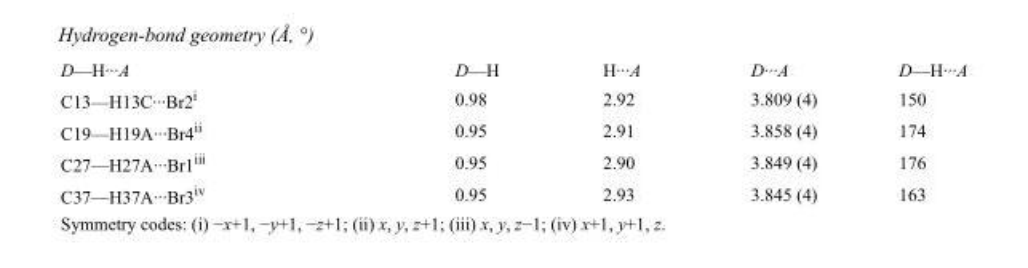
<table><tbody><tr><td>D—H···A</td><td>D—H</td><td>H···A</td><td>D···A</td><td>D—H···A</td></tr><tr><td>C13—H13C···Br2<sup>i</sup></td><td>0.98</td><td>2.92</td><td>3.809 (4)</td><td>150</td></tr><tr><td>C19—H19A···Br4<sup>ii</sup></td><td>0.95</td><td>2.91</td><td>3.858 (4)</td><td>174</td></tr><tr><td>C27—H27A···Br1<sup>iii</sup></td><td>0.95</td><td>2.90</td><td>3.849 (4)</td><td>176</td></tr><tr><td>C37—H37A···Br3<sup>iv</sup></td><td>0.95</td><td>2.93</td><td>3.845 (4)</td><td>163</td></tr></tbody></table>